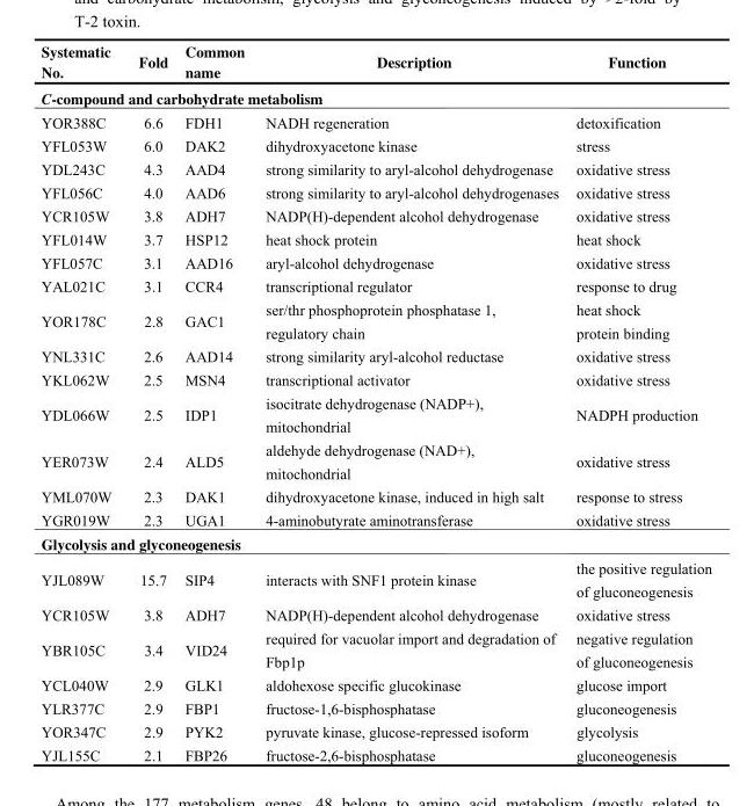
<table><thead><tr><td>Systematic No.</td><td>Fold</td><td>Common name</td><td>Description</td><td>Function</td></tr></thead><tbody><tr><td colspan="5">C-compound and carbohydrate metabolism</td></tr><tr><td>YOR388C</td><td>6.6</td><td>FDH1</td><td>NADH regeneration</td><td>detoxification</td></tr><tr><td>YFL053W</td><td>6.0</td><td>DAK2</td><td>dihydroxyacetone kinase</td><td>stress</td></tr><tr><td>YDL243C</td><td>4.3</td><td>AAD4</td><td>strong similarity to aryl-alcohol dehydrogenase</td><td>oxidative stress</td></tr><tr><td>YFL056C</td><td>4.0</td><td>AAD6</td><td>strong similarity to aryl-alcohol dehydrogenases</td><td>oxidative stress</td></tr><tr><td>YCR105W</td><td>3.8</td><td>ADH7</td><td>NADP(H)-dependent alcohol dehydrogenase</td><td>oxidative stress</td></tr><tr><td>YFL014W</td><td>3.7</td><td>HSP12</td><td>heat shock protein</td><td>heat shock</td></tr><tr><td>YFL057C</td><td>3.1</td><td>AAD16</td><td>aryl-alcohol dehydrogenase</td><td>oxidative stress</td></tr><tr><td>YAL021C</td><td>3.1</td><td>CCR4</td><td>transcriptional regulator</td><td>response to drug</td></tr><tr><td>YOR178C</td><td>2.8</td><td>GAC1</td><td>ser/thr phosphoprotein phosphatase 1, regulatory chain</td><td>heat shock protein binding</td></tr><tr><td>YNL331C</td><td>2.6</td><td>AAD14</td><td>strong similarity aryl-alcohol reductase</td><td>oxidative stress</td></tr><tr><td>YKL062W</td><td>2.5</td><td>MSN4</td><td>transcriptional activator</td><td>oxidative stress</td></tr><tr><td>YDL066W</td><td>2.5</td><td>IDP1</td><td>isocitrate dehydrogenase (NADP+), mitochondrial</td><td>NADPH production</td></tr><tr><td>YER073W</td><td>2.4</td><td>ALD5</td><td>aldehyde dehydrogenase (NAD+), mitochondrial</td><td>oxidative stress</td></tr><tr><td>YML070W</td><td>2.3</td><td>DAK1</td><td>dihydroxyacetone kinase, induced in high salt</td><td>response to stress</td></tr><tr><td>YGR019W</td><td>2.3</td><td>UGA1</td><td>4-aminobutyrate aminotransferase</td><td>oxidative stress</td></tr><tr><td colspan="5">Glycolysis and glyconeogenesis</td></tr><tr><td>YJL089W</td><td>15.7</td><td>SIP4</td><td>interacts with SNF1 protein kinase</td><td>the positive regulation of gluconeogenesis</td></tr><tr><td>YCR105W</td><td>3.8</td><td>ADH7</td><td>NADP(H)-dependent alcohol dehydrogenase</td><td>oxidative stress</td></tr><tr><td>YBR105C</td><td>3.4</td><td>VID24</td><td>required for vacuolar import and degradation of Fbp1p</td><td>negative regulation of gluconeogenesis</td></tr><tr><td>YCL040W</td><td>2.9</td><td>GLK1</td><td>aldohexose specific glucokinase</td><td>glucose import</td></tr><tr><td>YLR377C</td><td>2.9</td><td>FBP1</td><td>fructose-1,6-bisphosphatase</td><td>gluconeogenesis</td></tr><tr><td>YOR347C</td><td>2.9</td><td>PYK2</td><td>pyruvate kinase, glucose-repressed isoform</td><td>glycolysis</td></tr><tr><td>YJL155C</td><td>2.1</td><td>FBP26</td><td>fructose-2,6-bisphosphatase</td><td>gluconeogenesis</td></tr></tbody></table>